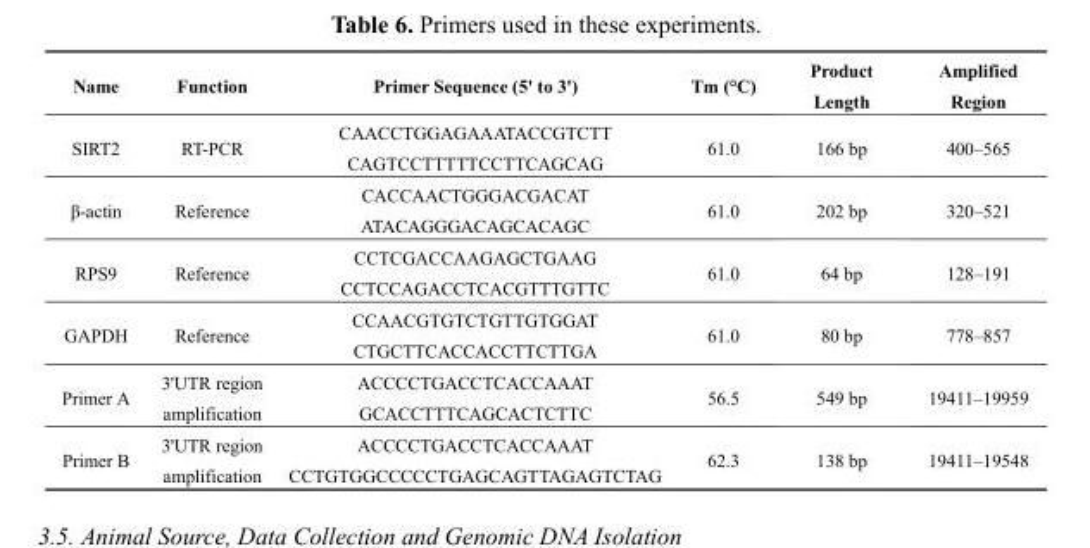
<table><thead><tr><td>Name</td><td>Function</td><td>Primer Sequence (5&#x27; to 3&#x27;)</td><td>Tm (°C)</td><td>Product Length</td><td>Amplified Region</td></tr></thead><tbody><tr><td rowspan="2">SIRT2</td><td rowspan="2">RT-PCR</td><td>CAACCTGGAGAAATACCGTCTT</td><td rowspan="2">61.0</td><td rowspan="2">166 bp</td><td rowspan="2">400–565</td></tr><tr><td>CAGTCCTTTTTCCTTCAGCAG</td></tr><tr><td rowspan="2">β-actin</td><td rowspan="2">Reference</td><td>CACCAACTGGGACGACAT</td><td rowspan="2">61.0</td><td rowspan="2">202 bp</td><td rowspan="2">320–521</td></tr><tr><td>ATACAGGGACAGCACAGC</td></tr><tr><td rowspan="2">RPS9</td><td rowspan="2">Reference</td><td>CCTCGACCAAGAGCTGAAG</td><td rowspan="2">61.0</td><td rowspan="2">64 bp</td><td rowspan="2">128–191</td></tr><tr><td>CCTCCAGACCTCACGTTTGTTC</td></tr><tr><td rowspan="2">GAPDH</td><td rowspan="2">Reference</td><td>CCAACGTGTCTGTTGTGGAT</td><td rowspan="2">61.0</td><td rowspan="2">80 bp</td><td rowspan="2">778–857</td></tr><tr><td>CTGCTTCACCACCTTCTTGA</td></tr><tr><td rowspan="2">Primer A</td><td rowspan="2">3&#x27;UTR region amplification</td><td>ACCCCTGACCTCACCAAAT</td><td rowspan="2">56.5</td><td rowspan="2">549 bp</td><td rowspan="2">19411–19959</td></tr><tr><td>GCACCTTTCAGCACTCTTC</td></tr><tr><td rowspan="2">Primer B</td><td rowspan="2">3&#x27;UTR region amplification</td><td>ACCCCTGACCTCACCAAAT</td><td rowspan="2">62.3</td><td rowspan="2">138 bp</td><td rowspan="2">19411–19548</td></tr><tr><td>CCTGTGGCCCCCTGAGCAGTTAGAGTCTAG</td></tr></tbody></table>